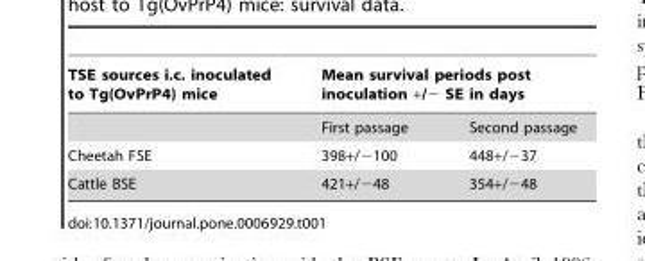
<table><thead><tr><td rowspan="2">TSE sources i.c. inoculated to Tg(OvPrP4) mice</td><td colspan="2">Mean survival periods post inoculation +/− SE in days</td></tr><tr><td>First passage</td><td>Second passage</td></tr></thead><tbody><tr><td>Cheetah FSE</td><td>398+/−100</td><td>448+/−37</td></tr><tr><td>Cattle BSE</td><td>421+/−48</td><td>354+/−48</td></tr></tbody></table>